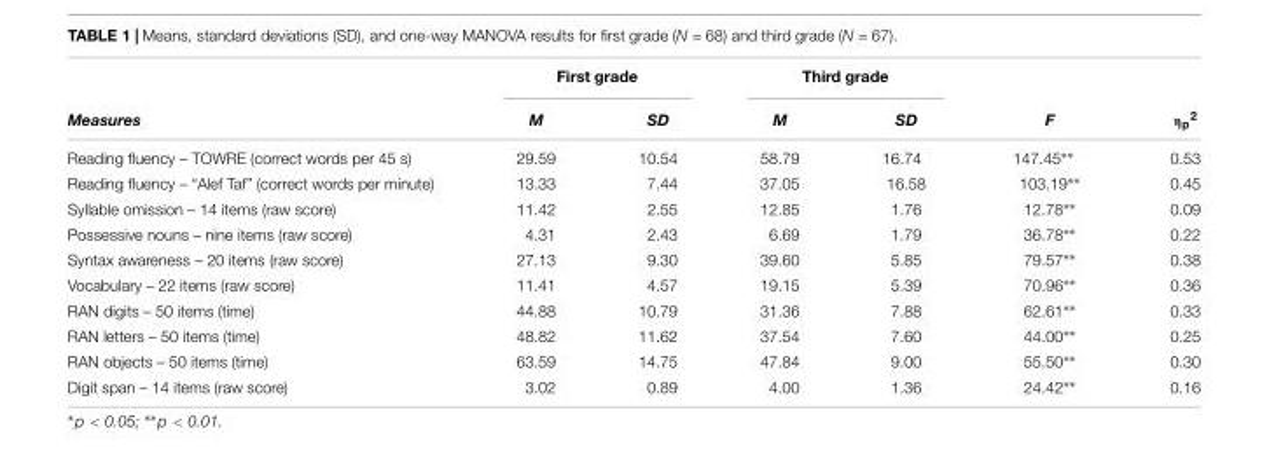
<table><thead><tr><td rowspan="2">Measures</td><td colspan="2">First grade</td><td colspan="2">Third grade</td><td rowspan="2">F</td><td rowspan="2">η<sub>p</sub><sup>2</sup></td></tr><tr><td>M</td><td>SD</td><td>M</td><td>SD</td></tr></thead><tbody><tr><td>Reading fluency – TOWRE (correct words per 45 s)</td><td>29.59</td><td>10.54</td><td>58.79</td><td>16.74</td><td>147.45∗∗</td><td>0.53</td></tr><tr><td>Reading fluency – “Alef Taf” (correct words per minute)</td><td>13.33</td><td>7.44</td><td>37.05</td><td>16.58</td><td>103.19∗∗</td><td>0.45</td></tr><tr><td>Syllable omission – 14 items (raw score)</td><td>11.42</td><td>2.55</td><td>12.85</td><td>1.76</td><td>12.78∗∗</td><td>0.09</td></tr><tr><td>Possessive nouns – nine items (raw score)</td><td>4.31</td><td>2.43</td><td>6.69</td><td>1.79</td><td>36.78∗∗</td><td>0.22</td></tr><tr><td>Syntax awareness – 20 items (raw score)</td><td>27.13</td><td>9.30</td><td>39.60</td><td>5.85</td><td>79.57∗∗</td><td>0.38</td></tr><tr><td>Vocabulary – 22 items (raw score)</td><td>11.41</td><td>4.57</td><td>19.15</td><td>5.39</td><td>70.96∗∗</td><td>0.36</td></tr><tr><td>RAN digits – 50 items (time)</td><td>44.88</td><td>10.79</td><td>31.36</td><td>7.88</td><td>62.61∗∗</td><td>0.33</td></tr><tr><td>RAN letters – 50 items (time)</td><td>48.82</td><td>11.62</td><td>37.54</td><td>7.60</td><td>44.00∗∗</td><td>0.25</td></tr><tr><td>RAN objects – 50 items (time)</td><td>63.59</td><td>14.75</td><td>47.84</td><td>9.00</td><td>55.50∗∗</td><td>0.30</td></tr><tr><td>Digit span – 14 items (raw score)</td><td>3.02</td><td>0.89</td><td>4.00</td><td>1.36</td><td>24.42∗∗</td><td>0.16</td></tr></tbody></table>